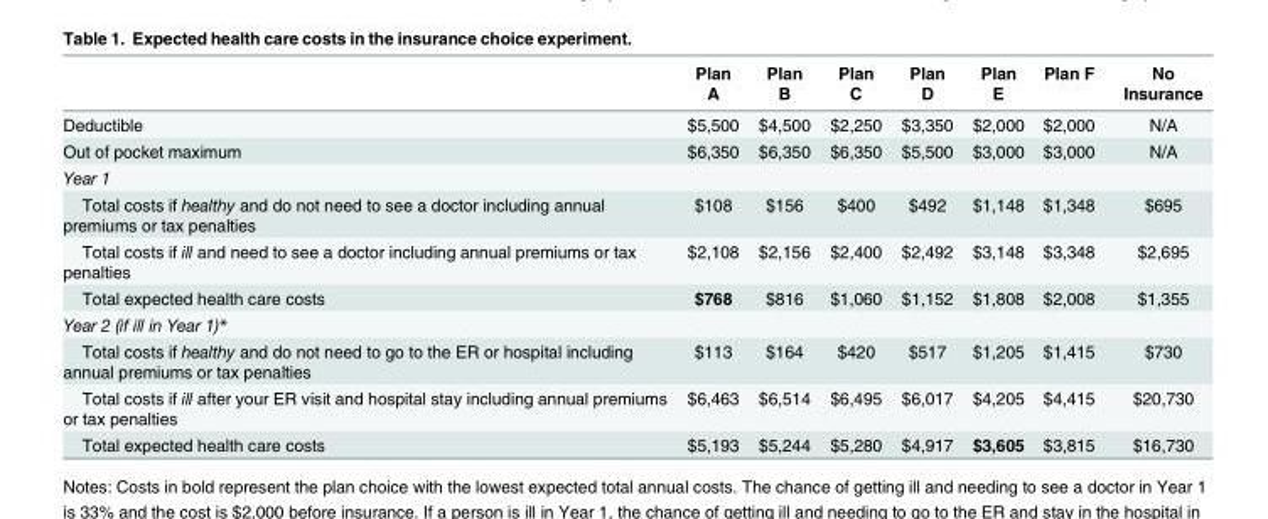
<table><thead><tr><td></td><td>Plan A</td><td>Plan B</td><td>Plan C</td><td>Plan D</td><td>Plan E</td><td>Plan F</td><td>No Insurance</td></tr></thead><tbody><tr><td>Deductible</td><td>$5,500</td><td>$4,500</td><td>$2,250</td><td>$3,350</td><td>$2,000</td><td>$2,000</td><td>N/A</td></tr><tr><td>Out of pocket maximum</td><td>$6,350</td><td>$6,350</td><td>$6,350</td><td>$5,500</td><td>$3,000</td><td>$3,000</td><td>N/A</td></tr><tr><td colspan="8">Year 1</td></tr><tr><td>Total costs if healthy and do not need to see a doctor including annual premiums or tax penalties</td><td>$108</td><td>$156</td><td>$400</td><td>$492</td><td>$1,148</td><td>$1,348</td><td>$695</td></tr><tr><td>Total costs if ill and need to see a doctor including annual premiums or tax penalties</td><td>$2,108</td><td>$2,156</td><td>$2,400</td><td>$2,492</td><td>$3,148</td><td>$3,348</td><td>$2,695</td></tr><tr><td>Total expected health care costs</td><td>$768</td><td>$816</td><td>$1,060</td><td>$1,152</td><td>$1,808</td><td>$2,008</td><td>$1,355</td></tr><tr><td colspan="8">Year 2 (if ill in Year 1)*</td></tr><tr><td>Total costs if healthy and do not need to go to the ER or hospital including annual premiums or tax penalties</td><td>$113</td><td>$164</td><td>$420</td><td>$517</td><td>$1,205</td><td>$1,415</td><td>$730</td></tr><tr><td>Total costs if ill after your ER visit and hospital stay including annual premiums or tax penalties</td><td>$6,463</td><td>$6,514</td><td>$6,495</td><td>$6,017</td><td>$4,205</td><td>$4,415</td><td>$20,730</td></tr><tr><td>Total expected health care costs</td><td>$5,193</td><td>$5,244</td><td>$5,280</td><td>$4,917</td><td>$3,605</td><td>$3,815</td><td>$16,730</td></tr></tbody></table>